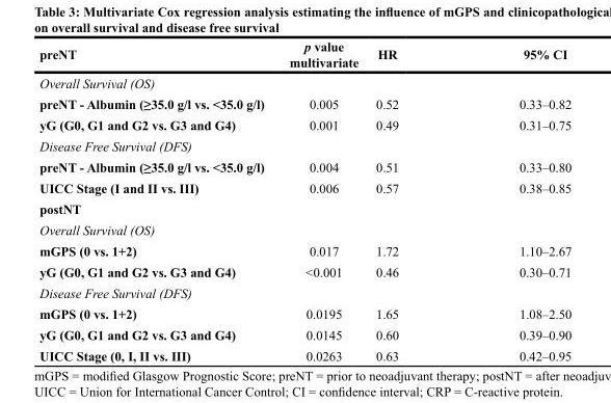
<table><thead><tr><td>preNT</td><td>p value multivariate</td><td>HR</td><td>95% CI</td></tr></thead><tbody><tr><td colspan="4">Overall Survival (OS)</td></tr><tr><td>preNT - Albumin (≥35.0 g/l vs. &lt;35.0 g/l)</td><td>0.005</td><td>0.52</td><td>0.33–0.82</td></tr><tr><td>yG (G0, G1 and G2 vs. G3 and G4)</td><td>0.001</td><td>0.49</td><td>0.31–0.75</td></tr><tr><td colspan="4">Disease Free Survival (DFS)</td></tr><tr><td>preNT - Albumin (≥35.0 g/l vs. &lt;35.0 g/l)</td><td>0.004</td><td>0.51</td><td>0.33–0.80</td></tr><tr><td>UICC Stage (I and II vs. III)</td><td>0.006</td><td>0.57</td><td>0.38–0.85</td></tr><tr><td colspan="4">postNT</td></tr><tr><td colspan="4">Overall Survival (OS)</td></tr><tr><td>mGPS (0 vs. 1+2)</td><td>0.017</td><td>1.72</td><td>1.10–2.67</td></tr><tr><td>yG (G0, G1 and G2 vs. G3 and G4)</td><td>&lt;0.001</td><td>0.46</td><td>0.30–0.71</td></tr><tr><td colspan="4">Disease Free Survival (DFS)</td></tr><tr><td>mGPS (0 vs. 1+2)</td><td>0.0195</td><td>1.65</td><td>1.08–2.50</td></tr><tr><td>yG (G0, G1 and G2 vs. G3 and G4)</td><td>0.0145</td><td>0.60</td><td>0.39–0.90</td></tr><tr><td>UICC Stage (0, I, II vs. III)</td><td>0.0263</td><td>0.63</td><td>0.42–0.95</td></tr></tbody></table>